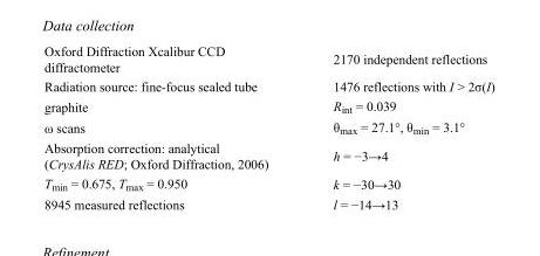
<table><tbody><tr><td>Oxford Diffraction Xcalibur CCD diffractometer</td><td>2170 independent reflections</td></tr><tr><td>Radiation source: fine-focus sealed tube</td><td>1476 reflections with I &gt; 2σ(I)</td></tr><tr><td>graphite</td><td>R<sub>int</sub> = 0.039</td></tr><tr><td>ω scans</td><td>θ<sub>max</sub> = 27.1°, θ<sub>min</sub> = 3.1°</td></tr><tr><td>Absorption correction: analytical (CrysAlis RED; Oxford Diffraction, 2006)</td><td>h = −3→4</td></tr><tr><td>T<sub>min</sub> = 0.675, T<sub>max</sub> = 0.950</td><td>k = −30→30</td></tr><tr><td>8945 measured reflections</td><td>l = −14→13</td></tr></tbody></table>